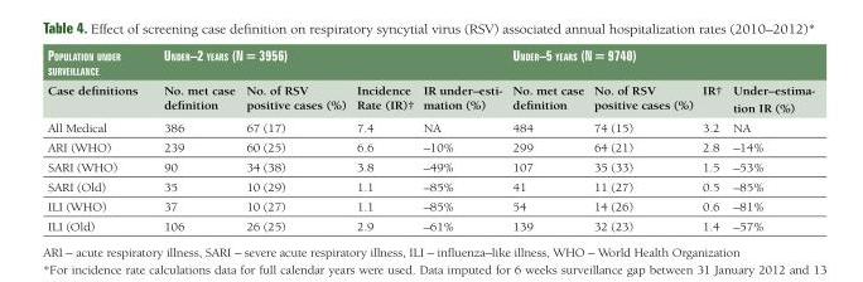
<table><thead><tr><td rowspan="2">PoPulation under surVeillanCe Case definitions</td><td colspan="4">under–2 years (n = 3956)</td><td colspan="4">under–5 years (n = 9740)</td></tr><tr><td>No. met case definition</td><td>No. of RSV positive cases (%)</td><td>Incidence Rate (IR)†</td><td>IR under–esti- mation (%)</td><td>No. met case definition</td><td>No. of RSV positive cases (%)</td><td>IR†</td><td>Under–estima- tion IR (%)</td></tr></thead><tbody><tr><td>All Medical</td><td>386</td><td>67 (17)</td><td>7.4</td><td>NA</td><td>484</td><td>74 (15)</td><td>3.2</td><td>NA</td></tr><tr><td>ARI (WHO)</td><td>239</td><td>60 (25)</td><td>6.6</td><td>–10%</td><td>299</td><td>64 (21)</td><td>2.8</td><td>–14%</td></tr><tr><td>SARI (WHO)</td><td>90</td><td>34 (38)</td><td>3.8</td><td>–49%</td><td>107</td><td>35 (33)</td><td>1.5</td><td>–53%</td></tr><tr><td>SARI (Old)</td><td>35</td><td>10 (29)</td><td>1.1</td><td>–85%</td><td>41</td><td>11 (27)</td><td>0.5</td><td>–85%</td></tr><tr><td>ILI (WHO)</td><td>37</td><td>10 (27)</td><td>1.1</td><td>–85%</td><td>54</td><td>14 (26)</td><td>0.6</td><td>–81%</td></tr><tr><td>ILI (Old)</td><td>106</td><td>26 (25)</td><td>2.9</td><td>–61%</td><td>139</td><td>32 (23)</td><td>1.4</td><td>–57%</td></tr></tbody></table>